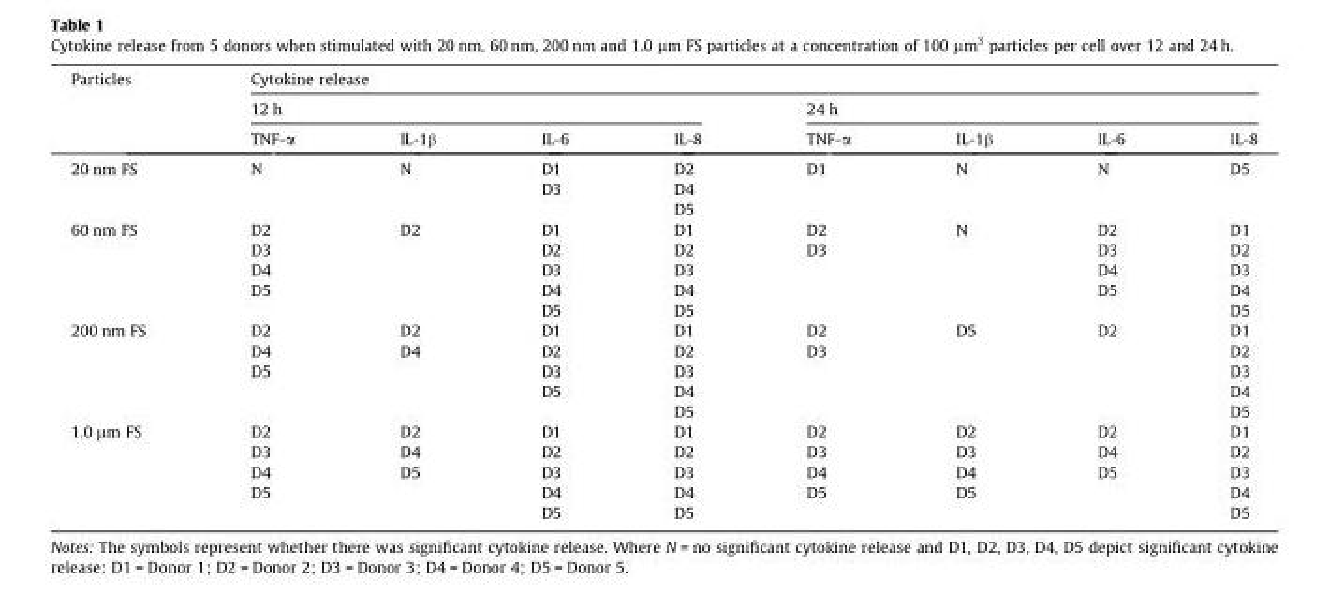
<table><thead><tr><td rowspan="3">Particles</td><td colspan="8">Cytokine release</td></tr><tr><td colspan="4">12 h</td><td colspan="4">24 h</td></tr><tr><td>TNF-α</td><td>IL-1β</td><td>IL-6</td><td>IL-8</td><td>TNF-α</td><td>IL-1β</td><td>IL-6</td><td>IL-8</td></tr></thead><tbody><tr><td>20 nm FS</td><td>N</td><td>N</td><td>D1 D3</td><td>D2 D4 D5</td><td>D1</td><td>N</td><td>N</td><td>D5</td></tr><tr><td>60 nm FS</td><td>D2 D3 D4 D5</td><td>D2</td><td>D1 D2 D3 D4 D5</td><td>D1 D2 D3 D4 D5</td><td>D2 D3</td><td>N</td><td>D2 D3 D4 D5</td><td>D1 D2 D3 D4 D5</td></tr><tr><td>200 nm FS</td><td>D2 D4 D5</td><td>D2 D4</td><td>D1 D2 D3 D5</td><td>D1 D2 D3 D4 D5</td><td>D2 D3</td><td>D5</td><td>D2</td><td>D1 D2 D3 D4 D5</td></tr><tr><td>1.0 μm FS</td><td>D2 D3 D4 D5</td><td>D2 D4 D5</td><td>D1 D2 D3 D4 D5</td><td>D1 D2 D3 D4 D5</td><td>D2 D3 D4 D5</td><td>D2 D3 D4 D5</td><td>D2 D4 D5</td><td>D1 D2 D3 D4 D5</td></tr></tbody></table>